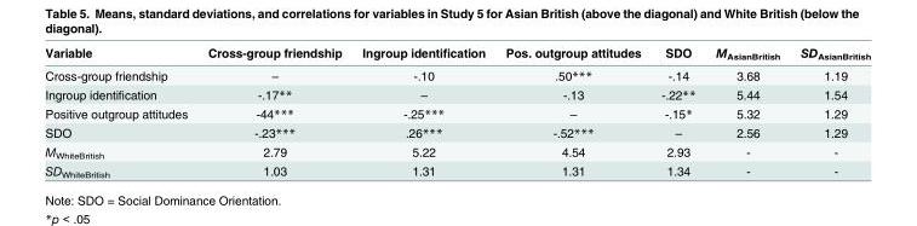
<table><thead><tr><td>Variable</td><td>Cross-group friendship</td><td>Ingroup identification</td><td>Pos. outgroup attitudes</td><td>SDO</td><td>M<sub>AsianBritish</sub></td><td>SD<sub>AsianBritish</sub></td></tr></thead><tbody><tr><td>Cross-group friendship</td><td>–</td><td>-.10</td><td>.50***</td><td>-.14</td><td>3.68</td><td>1.19</td></tr><tr><td>Ingroup identification</td><td>-.17**</td><td>–</td><td>-.13</td><td>-.22**</td><td>5.44</td><td>1.54</td></tr><tr><td>Positive outgroup attitudes</td><td>-44***</td><td>-.25***</td><td>–</td><td>-.15*</td><td>5.32</td><td>1.29</td></tr><tr><td>SDO</td><td>-.23***</td><td>.26***</td><td>-.52***</td><td>–</td><td>2.56</td><td>1.29</td></tr><tr><td>M<sub>WhiteBritish</sub></td><td>2.79</td><td>5.22</td><td>4.54</td><td>2.93</td><td>-</td><td>-</td></tr><tr><td>SD<sub>WhiteBritish</sub></td><td>1.03</td><td>1.31</td><td>1.31</td><td>1.34</td><td>-</td><td>-</td></tr></tbody></table>